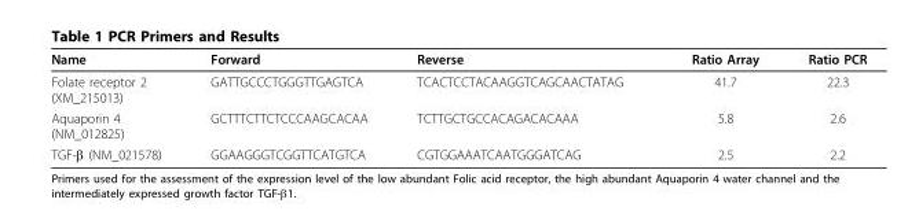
<table><thead><tr><td>Name</td><td>Forward</td><td>Reverse</td><td>Ratio Array</td><td>Ratio PCR</td></tr></thead><tbody><tr><td>Folate receptor 2 (XM_215013)</td><td>GATTGCCCTGGGTTGAGTCA</td><td>TCACTCCTACAAGGTCAGCAACTATAG</td><td>41.7</td><td>22.3</td></tr><tr><td>Aquaporin 4 (NM_012825)</td><td>GCTTTCTTCTCCCAAGCACAA</td><td>TCTTGCTGCCACAGACACAAA</td><td>5.8</td><td>2.6</td></tr><tr><td>TGF-β (NM_021578)</td><td>GGAAGGGTCGGTTCATGTCA</td><td>CGTGGAAATCAATGGGATCAG</td><td>2.5</td><td>2.2</td></tr></tbody></table>